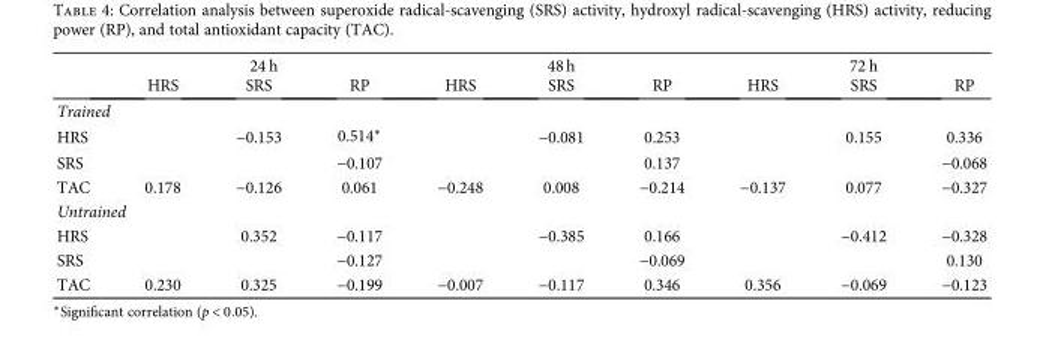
<table><thead><tr><td rowspan="2"></td><td colspan="3">24 h</td><td colspan="3">48 h</td><td colspan="3">72 h</td></tr><tr><td>HRS</td><td>SRS</td><td>RP</td><td>HRS</td><td>SRS</td><td>RP</td><td>HRS</td><td>SRS</td><td>RP</td></tr></thead><tbody><tr><td colspan="10">Trained</td></tr><tr><td>HRS</td><td></td><td>−0.153</td><td>0.514∗</td><td></td><td>−0.081</td><td>0.253</td><td></td><td>0.155</td><td>0.336</td></tr><tr><td>SRS</td><td></td><td></td><td>−0.107</td><td></td><td></td><td>0.137</td><td></td><td></td><td>−0.068</td></tr><tr><td>TAC</td><td>0.178</td><td>−0.126</td><td>0.061</td><td>−0.248</td><td>0.008</td><td>−0.214</td><td>−0.137</td><td>0.077</td><td>−0.327</td></tr><tr><td colspan="10">Untrained</td></tr><tr><td>HRS</td><td></td><td>0.352</td><td>−0.117</td><td></td><td>−0.385</td><td>0.166</td><td></td><td>−0.412</td><td>−0.328</td></tr><tr><td>SRS</td><td></td><td></td><td>−0.127</td><td></td><td></td><td>−0.069</td><td></td><td></td><td>0.130</td></tr><tr><td>TAC</td><td>0.230</td><td>0.325</td><td>−0.199</td><td>−0.007</td><td>−0.117</td><td>0.346</td><td>0.356</td><td>−0.069</td><td>−0.123</td></tr></tbody></table>